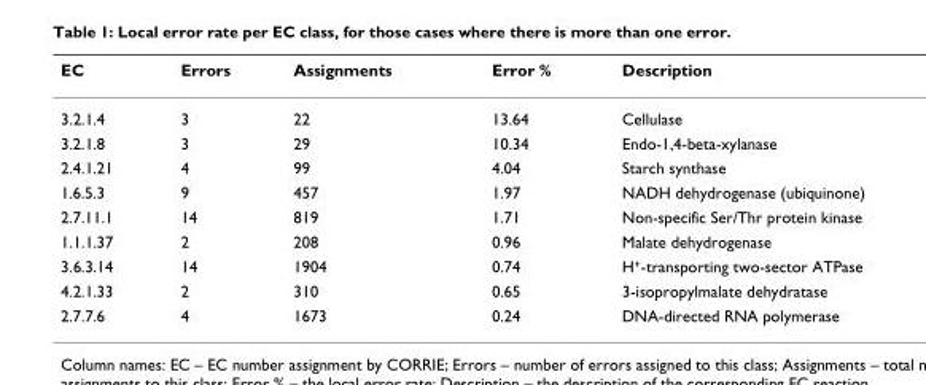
<table><thead><tr><td>EC</td><td>Errors</td><td>Assignments</td><td>Error %</td><td>Description</td></tr></thead><tbody><tr><td>3.2.1.4</td><td>3</td><td>22</td><td>13.64</td><td>Cellulase</td></tr><tr><td>3.2.1.8</td><td>3</td><td>29</td><td>10.34</td><td>Endo-1,4-beta-xylanase</td></tr><tr><td>2.4.1.21</td><td>4</td><td>99</td><td>4.04</td><td>Starch synthase</td></tr><tr><td>1.6.5.3</td><td>9</td><td>457</td><td>1.97</td><td>NADH dehydrogenase (ubiquinone)</td></tr><tr><td>2.7.11.1</td><td>14</td><td>819</td><td>1.71</td><td>Non-specific Ser/Thr protein kinase</td></tr><tr><td>1.1.1.37</td><td>2</td><td>208</td><td>0.96</td><td>Malate dehydrogenase</td></tr><tr><td>3.6.3.14</td><td>14</td><td>1904</td><td>0.74</td><td>H+-transporting two-sector ATPase</td></tr><tr><td>4.2.1.33</td><td>2</td><td>310</td><td>0.65</td><td>3-isopropylmalate dehydratase</td></tr><tr><td>2.7.7.6</td><td>4</td><td>1673</td><td>0.24</td><td>DNA-directed RNA polymerase</td></tr></tbody></table>